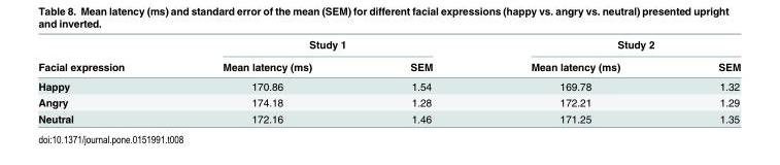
<table><thead><tr><td rowspan="2">Facial expression</td><td colspan="2">Study 1</td><td colspan="2">Study 2</td></tr><tr><td>Mean latency (ms)</td><td>SEM</td><td>Mean latency (ms)</td><td>SEM</td></tr></thead><tbody><tr><td>Happy</td><td>170.86</td><td>1.54</td><td>169.78</td><td>1.32</td></tr><tr><td>Angry</td><td>174.18</td><td>1.28</td><td>172.21</td><td>1.29</td></tr><tr><td>Neutral</td><td>172.16</td><td>1.46</td><td>171.25</td><td>1.35</td></tr></tbody></table>